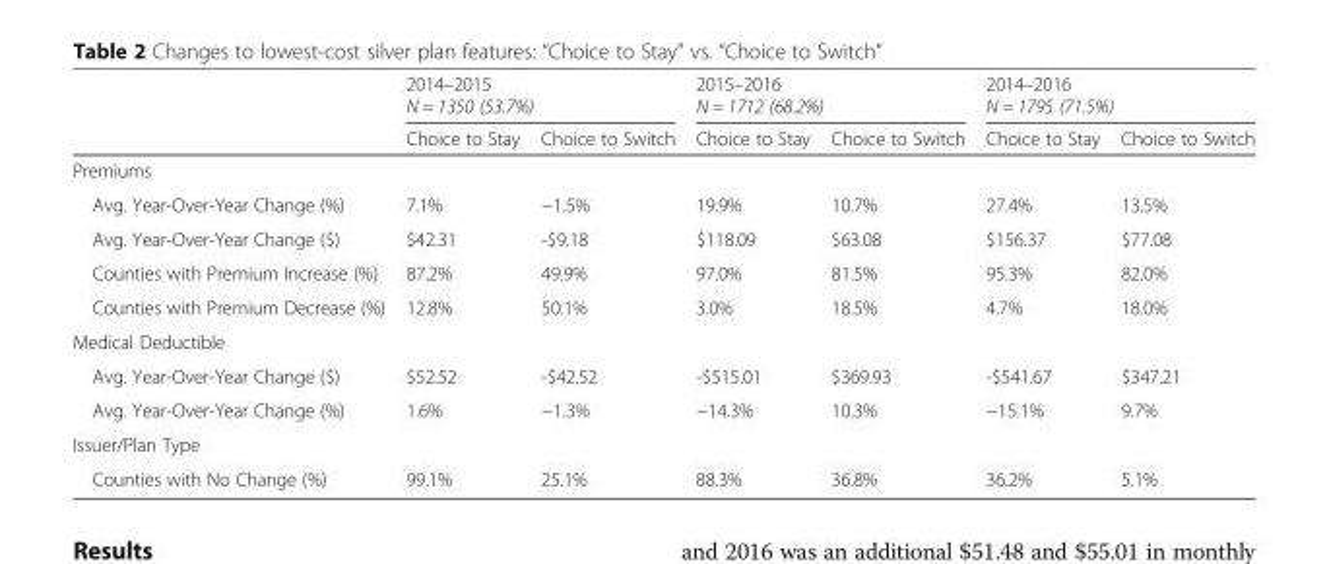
<table><thead><tr><td rowspan="2"></td><td colspan="2">2014–2015 N = 1350 (53.7%)</td><td colspan="2">2015–2016 N = 1712 (68.2%)</td><td colspan="2">2014–2016 N = 1795 (71.5%)</td></tr><tr><td>Choice to Stay</td><td>Choice to Switch</td><td>Choice to Stay</td><td>Choice to Switch</td><td>Choice to Stay</td><td>Choice to Switch</td></tr></thead><tbody><tr><td colspan="7">Premiums</td></tr><tr><td>Avg. Year-Over-Year Change (%)</td><td>7.1%</td><td>−1.5%</td><td>19.9%</td><td>10.7%</td><td>27.4%</td><td>13.5%</td></tr><tr><td>Avg. Year-Over-Year Change ($)</td><td>$42.31</td><td>-$9.18</td><td>$118.09</td><td>$63.08</td><td>$156.37</td><td>$77.08</td></tr><tr><td>Counties with Premium Increase (%)</td><td>87.2%</td><td>49.9%</td><td>97.0%</td><td>81.5%</td><td>95.3%</td><td>82.0%</td></tr><tr><td>Counties with Premium Decrease (%)</td><td>12.8%</td><td>50.1%</td><td>3.0%</td><td>18.5%</td><td>4.7%</td><td>18.0%</td></tr><tr><td colspan="7">Medical Deductible</td></tr><tr><td>Avg. Year-Over-Year Change ($)</td><td>$52.52</td><td>-$42.52</td><td>-$515.01</td><td>$369.93</td><td>-$541.67</td><td>$347.21</td></tr><tr><td>Avg. Year-Over-Year Change (%)</td><td>1.6%</td><td>−1.3%</td><td>−14.3%</td><td>10.3%</td><td>−15.1%</td><td>9.7%</td></tr><tr><td colspan="7">Issuer/Plan Type</td></tr><tr><td>Counties with No Change (%)</td><td>99.1%</td><td>25.1%</td><td>88.3%</td><td>36.8%</td><td>36.2%</td><td>5.1%</td></tr></tbody></table>